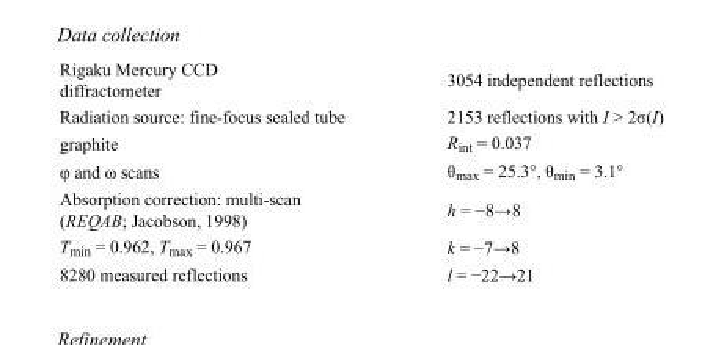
<table><tbody><tr><td>Rigaku Mercury CCD diffractometer</td><td>3054 independent reflections</td></tr><tr><td>Radiation source: fine-focus sealed tube</td><td>2153 reflections with I &gt; 2σ(I)</td></tr><tr><td>graphite</td><td>R<sub>int</sub> = 0.037</td></tr><tr><td>φ and ω scans</td><td>θ<sub>max</sub> = 25.3°, θ<sub>min</sub> = 3.1°</td></tr><tr><td>Absorption correction: multi-scan (REQAB; Jacobson, 1998)</td><td>h = −8→8</td></tr><tr><td>T<sub>min</sub> = 0.962, T<sub>max</sub> = 0.967</td><td>k = −7→8</td></tr><tr><td>8280 measured reflections</td><td>l = −22→21</td></tr></tbody></table>